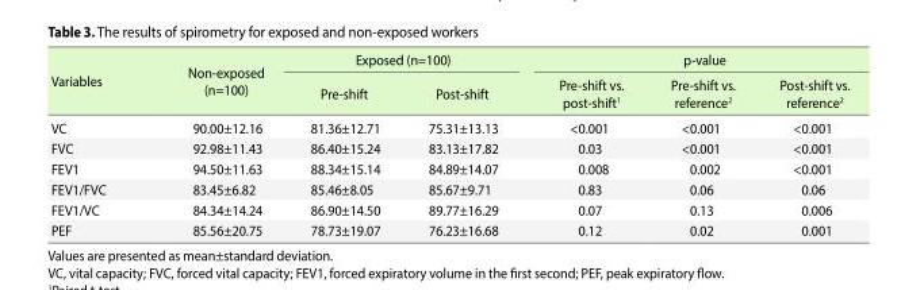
<table><thead><tr><td rowspan="2">Variables</td><td rowspan="2">Non-exposed (n=100)</td><td colspan="2">Exposed (n=100)</td><td colspan="3">p-value</td></tr><tr><td>Pre-shift</td><td>Post-shift</td><td>Pre-shift vs. post-shift<sup>1</sup></td><td>Pre-shift vs. reference<sup>2</sup></td><td>Post-shift vs. reference<sup>2</sup></td></tr></thead><tbody><tr><td>VC</td><td>90.00±12.16</td><td>81.36±12.71</td><td>75.31±13.13</td><td>&lt;0.001</td><td>&lt;0.001</td><td>&lt;0.001</td></tr><tr><td>FVC</td><td>92.98±11.43</td><td>86.40±15.24</td><td>83.13±17.82</td><td>0.03</td><td>&lt;0.001</td><td>&lt;0.001</td></tr><tr><td>FEV1</td><td>94.50±11.63</td><td>88.34±15.14</td><td>84.89±14.07</td><td>0.008</td><td>0.002</td><td>&lt;0.001</td></tr><tr><td>FEV1/FVC</td><td>83.45±6.82</td><td>85.46±8.05</td><td>85.67±9.71</td><td>0.83</td><td>0.06</td><td>0.06</td></tr><tr><td>FEV1/VC</td><td>84.34±14.24</td><td>86.90±14.50</td><td>89.77±16.29</td><td>0.07</td><td>0.13</td><td>0.006</td></tr><tr><td>PEF</td><td>85.56±20.75</td><td>78.73±19.07</td><td>76.23±16.68</td><td>0.12</td><td>0.02</td><td>0.001</td></tr></tbody></table>